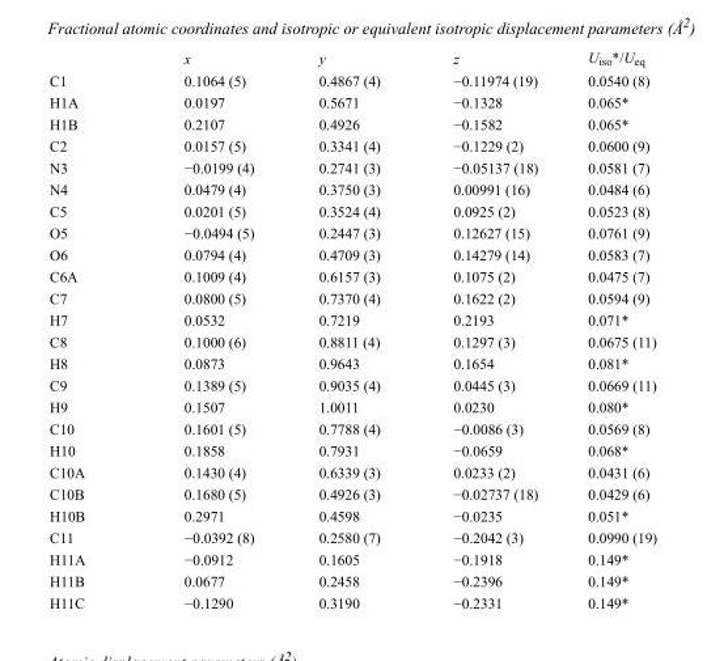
<table><thead><tr><td></td><td>x</td><td>y</td><td>z</td><td>U<sub>iso</sub>*/U<sub>eq</sub></td></tr></thead><tbody><tr><td>C1</td><td>0.1064 (5)</td><td>0.4867 (4)</td><td>−0.11974 (19)</td><td>0.0540 (8)</td></tr><tr><td>H1A</td><td>0.0197</td><td>0.5671</td><td>−0.1328</td><td>0.065*</td></tr><tr><td>H1B</td><td>0.2107</td><td>0.4926</td><td>−0.1582</td><td>0.065*</td></tr><tr><td>C2</td><td>0.0157 (5)</td><td>0.3341 (4)</td><td>−0.1229 (2)</td><td>0.0600 (9)</td></tr><tr><td>N3</td><td>−0.0199 (4)</td><td>0.2741 (3)</td><td>−0.05137 (18)</td><td>0.0581 (7)</td></tr><tr><td>N4</td><td>0.0479 (4)</td><td>0.3750 (3)</td><td>0.00991 (16)</td><td>0.0484 (6)</td></tr><tr><td>C5</td><td>0.0201 (5)</td><td>0.3524 (4)</td><td>0.0925 (2)</td><td>0.0523 (8)</td></tr><tr><td>O5</td><td>−0.0494 (5)</td><td>0.2447 (3)</td><td>0.12627 (15)</td><td>0.0761 (9)</td></tr><tr><td>O6</td><td>0.0794 (4)</td><td>0.4709 (3)</td><td>0.14279 (14)</td><td>0.0583 (7)</td></tr><tr><td>C6A</td><td>0.1009 (4)</td><td>0.6157 (3)</td><td>0.1075 (2)</td><td>0.0475 (7)</td></tr><tr><td>C7</td><td>0.0800 (5)</td><td>0.7370 (4)</td><td>0.1622 (2)</td><td>0.0594 (9)</td></tr><tr><td>H7</td><td>0.0532</td><td>0.7219</td><td>0.2193</td><td>0.071*</td></tr><tr><td>C8</td><td>0.1000 (6)</td><td>0.8811 (4)</td><td>0.1297 (3)</td><td>0.0675 (11)</td></tr><tr><td>H8</td><td>0.0873</td><td>0.9643</td><td>0.1654</td><td>0.081*</td></tr><tr><td>C9</td><td>0.1389 (5)</td><td>0.9035 (4)</td><td>0.0445 (3)</td><td>0.0669 (11)</td></tr><tr><td>H9</td><td>0.1507</td><td>1.0011</td><td>0.0230</td><td>0.080*</td></tr><tr><td>C10</td><td>0.1601 (5)</td><td>0.7788 (4)</td><td>−0.0086 (3)</td><td>0.0569 (8)</td></tr><tr><td>H10</td><td>0.1858</td><td>0.7931</td><td>−0.0659</td><td>0.068*</td></tr><tr><td>C10A</td><td>0.1430 (4)</td><td>0.6339 (3)</td><td>0.0233 (2)</td><td>0.0431 (6)</td></tr><tr><td>C10B</td><td>0.1680 (5)</td><td>0.4926 (3)</td><td>−0.02737 (18)</td><td>0.0429 (6)</td></tr><tr><td>H10B</td><td>0.2971</td><td>0.4598</td><td>−0.0235</td><td>0.051*</td></tr><tr><td>C11</td><td>−0.0392 (8)</td><td>0.2580 (7)</td><td>−0.2042 (3)</td><td>0.0990 (19)</td></tr><tr><td>H11A</td><td>−0.0912</td><td>0.1605</td><td>−0.1918</td><td>0.149*</td></tr><tr><td>H11B</td><td>0.0677</td><td>0.2458</td><td>−0.2396</td><td>0.149*</td></tr><tr><td>H11C</td><td>−0.1290</td><td>0.3190</td><td>−0.2331</td><td>0.149*</td></tr></tbody></table>